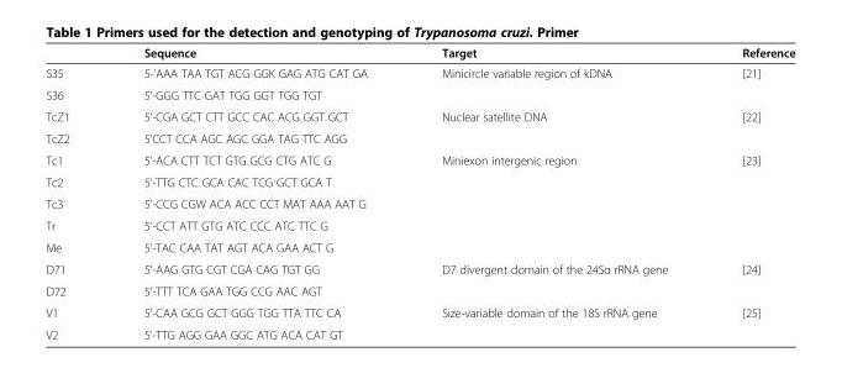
<table><thead><tr><td></td><td>Sequence</td><td>Target</td><td>Reference</td></tr></thead><tbody><tr><td>S35</td><td>5-’AAA TAA TGT ACG GGK GAG ATG CAT GA</td><td rowspan="2">Minicircle variable region of kDNA</td><td rowspan="2">[21]</td></tr><tr><td>S36</td><td>5’-GGG TTC GAT TGG GGT TGG TGT</td></tr><tr><td>TcZ1</td><td>5’-CGA GCT CTT GCC CAC ACG GGT GCT</td><td rowspan="2">Nuclear satellite DNA</td><td rowspan="2">[22]</td></tr><tr><td>TcZ2</td><td>5’CCT CCA AGC AGC GGA TAG TTC AGG</td></tr><tr><td>Tc1</td><td>5’-ACA CTT TCT GTG GCG CTG ATC G</td><td rowspan="5">Miniexon intergenic region</td><td rowspan="5">[23]</td></tr><tr><td>Tc2</td><td>5’-TTG CTC GCA CAC TCG GCT GCA T</td></tr><tr><td>Tc3</td><td>5’-CCG CGW ACA ACC CCT MAT AAA AAT G</td></tr><tr><td>Tr</td><td>5’-CCT ATT GTG ATC CCC ATC TTC G</td></tr><tr><td>Me</td><td>5’-TAC CAA TAT AGT ACA GAA ACT G</td></tr><tr><td>D71</td><td>5’-AAG GTG CGT CGA CAG TGT GG</td><td rowspan="2">D7 divergent domain of the 24Sα rRNA gene</td><td rowspan="2">[24]</td></tr><tr><td>D72</td><td>5’-TTT TCA GAA TGG CCG AAC AGT</td></tr><tr><td>V1</td><td>5’-CAA GCG GCT GGG TGG TTA TTC CA</td><td>Size-variable domain of the 18S rRNA gene</td><td rowspan="2">[25]</td></tr><tr><td>V2</td><td>5’-TTG AGG GAA GGC ATG ACA CAT GT</td><td></td></tr></tbody></table>